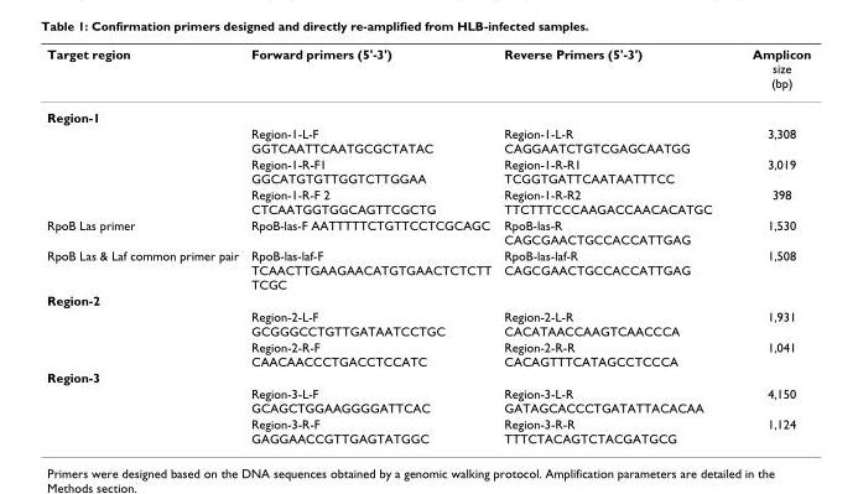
<table><thead><tr><td>Target region</td><td>Forward primers (5&#x27;-3&#x27;)</td><td>Reverse Primers (5&#x27;-3&#x27;)</td><td>Amplicon size (bp)</td></tr></thead><tbody><tr><td colspan="4">Region-1</td></tr><tr><td></td><td>Region-1-L-F GGTCAATTCAATGCGCTATAC</td><td>Region-1-L-R CAGGAATCTGTCGAGCAATGG</td><td>3,308</td></tr><tr><td></td><td>Region-1-R-F1 GGCATGTGTTGGTCTTGGAA</td><td>Region-1-R-R1 TCGGTGATTCAATAATTTCC</td><td>3,019</td></tr><tr><td></td><td>Region-1-R-F 2 CTCAATGGTGGCAGTTCGCTG</td><td>Region-1-R-R2 TTCTTTCCCAAGACCAACACATGC</td><td>398</td></tr><tr><td>RpoB Las primer</td><td>RpoB-las-F AATTTTTCTGTTCCTCGCAGC</td><td>RpoB-las-R CAGCGAACTGCCACCATTGAG</td><td>1,530</td></tr><tr><td>RpoB Las &amp; Laf common primer pair</td><td>RpoB-las-laf-F TCAACTTGAAGAACATGTGAACTCTCTT TCGC</td><td>RpoB-las-laf-R CAGCGAACTGCCACCATTGAG</td><td>1,508</td></tr><tr><td colspan="4">Region-2</td></tr><tr><td></td><td>Region-2-L-F GCGGGCCTGTTGATAATCCTGC</td><td>Region-2-L-R CACATAACCAAGTCAACCCA</td><td>1,931</td></tr><tr><td></td><td>Region-2-R-F CAACAACCCTGACCTCCATC</td><td>Region-2-R-R CACAGTTTCATAGCCTCCCA</td><td>1,041</td></tr><tr><td colspan="4">Region-3</td></tr><tr><td></td><td>Region-3-L-F GCAGCTGGAAGGGGATTCAC</td><td>Region-3-L-R GATAGCACCCTGATATTACACAA</td><td>4,150</td></tr><tr><td></td><td>Region-3-R-F GAGGAACCGTTGAGTATGGC</td><td>Region-3-R-R TTTCTACAGTCTACGATGCG</td><td>1,124</td></tr></tbody></table>